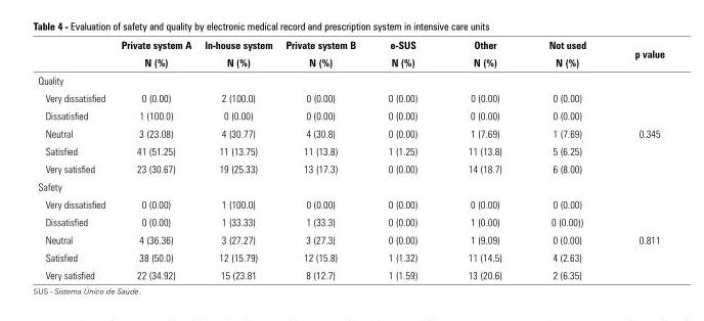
<table><thead><tr><td rowspan="2"></td><td rowspan="2">Private system A N (%)</td><td rowspan="2">In-house system N (%)</td><td rowspan="2">Private system B N (%)</td><td rowspan="2">e-SUS N (%)</td><td rowspan="2">Other N (%)</td><td rowspan="2">Not used N (%)</td><td rowspan="2">p value</td></tr><tr></tr></thead><tbody><tr><td colspan="8">Quality</td></tr><tr><td>Very dissatisfied</td><td>0 (0.00)</td><td>2 (100.0)</td><td>0 (0.00)</td><td>0 (0.00)</td><td>0 (0.00)</td><td>0 (0.00)</td><td rowspan="5">0.345</td></tr><tr><td>Dissatisfied</td><td>1 (100.0)</td><td>0 (0.00)</td><td>0 (0.00)</td><td>0 (0.00)</td><td>0 (0.00)</td><td>0 (0.00)</td></tr><tr><td>Neutral</td><td>3 (23.08)</td><td>4 (30.77)</td><td>4 (30.8)</td><td>0 (0.00)</td><td>1 (7.69)</td><td>1 (7.69)</td></tr><tr><td>Satisfied</td><td>41 (51.25)</td><td>11 (13.75)</td><td>11 (13.8)</td><td>1 (1.25)</td><td>11 (13.8)</td><td>5 (6.25)</td></tr><tr><td>Very satisfied</td><td>23 (30.67)</td><td>19 (25.33)</td><td>13 (17.3)</td><td>0 (0.00)</td><td>14 (18.7)</td><td>6 (8.00)</td></tr><tr><td colspan="8">Safety</td></tr><tr><td>Very dissatisfied</td><td>0 (0.00)</td><td>1 (100.0)</td><td>0 (0.00)</td><td>0 (0.00)</td><td>0 (0.00)</td><td>0 (0.00)</td><td rowspan="5">0.811</td></tr><tr><td>Dissatisfied</td><td>0 (0.00)</td><td>1 (33.33)</td><td>1 (33.3)</td><td>0 (0.00)</td><td>1 (0.00)</td><td>0 (0.00))</td></tr><tr><td>Neutral</td><td>4 (36.36)</td><td>3 (27.27)</td><td>3 (27.3)</td><td>0 (0.00)</td><td>1 (9.09)</td><td>0 (0.00)</td></tr><tr><td>Satisfied</td><td>38 (50.0)</td><td>12 (15.79)</td><td>12 (15.8)</td><td>1 (1.32)</td><td>11 (14.5)</td><td>4 (2.63)</td></tr><tr><td>Very satisfied</td><td>22 (34.92)</td><td>15 (23.81</td><td>8 (12.7)</td><td>1 (1.59)</td><td>13 (20.6)</td><td>2 (6.35)</td></tr></tbody></table>